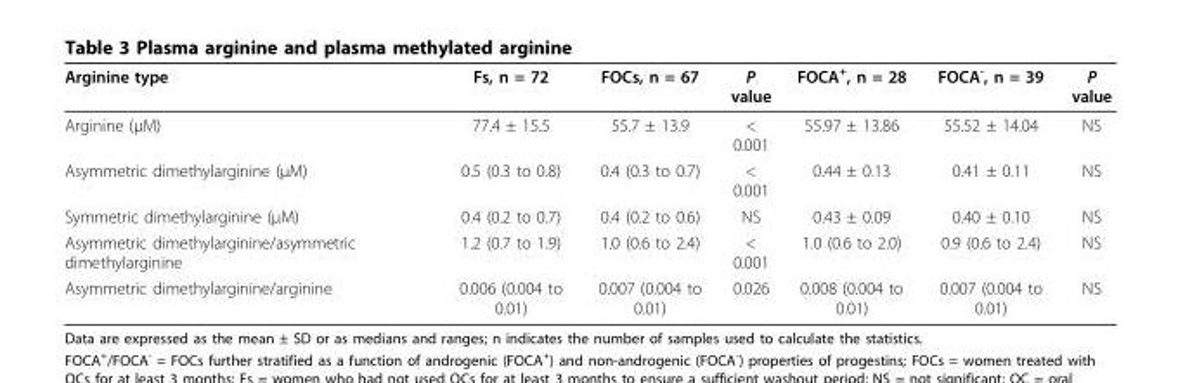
<table><thead><tr><td>Arginine type</td><td>Fs, n = 72</td><td>FOCs, n = 67</td><td>P value</td><td>FOCA<sup>+</sup>, n = 28</td><td>FOCA<sup>-</sup>, n = 39</td><td>P value</td></tr></thead><tbody><tr><td>Arginine (μM)</td><td>77.4 ± 15.5</td><td>55.7 ± 13.9</td><td>&lt; 0.001</td><td>55.97 ± 13.86</td><td>55.52 ± 14.04</td><td>NS</td></tr><tr><td>Asymmetric dimethylarginine (μM)</td><td>0.5 (0.3 to 0.8)</td><td>0.4 (0.3 to 0.7)</td><td>&lt; 0.001</td><td>0.44 ± 0.13</td><td>0.41 ± 0.11</td><td>NS</td></tr><tr><td>Symmetric dimethylarginine (μM)</td><td>0.4 (0.2 to 0.7)</td><td>0.4 (0.2 to 0.6)</td><td>NS</td><td>0.43 ± 0.09</td><td>0.40 ± 0.10</td><td>NS</td></tr><tr><td>Asymmetric dimethylarginine/asymmetric dimethylarginine</td><td>1.2 (0.7 to 1.9)</td><td>1.0 (0.6 to 2.4)</td><td>&lt; 0.001</td><td>1.0 (0.6 to 2.0)</td><td>0.9 (0.6 to 2.4)</td><td>NS</td></tr><tr><td>Asymmetric dimethylarginine/arginine</td><td>0.006 (0.004 to 0.01)</td><td>0.007 (0.004 to 0.01)</td><td>0.026</td><td>0.008 (0.004 to 0.01)</td><td>0.007 (0.004 to 0.01)</td><td>NS</td></tr></tbody></table>